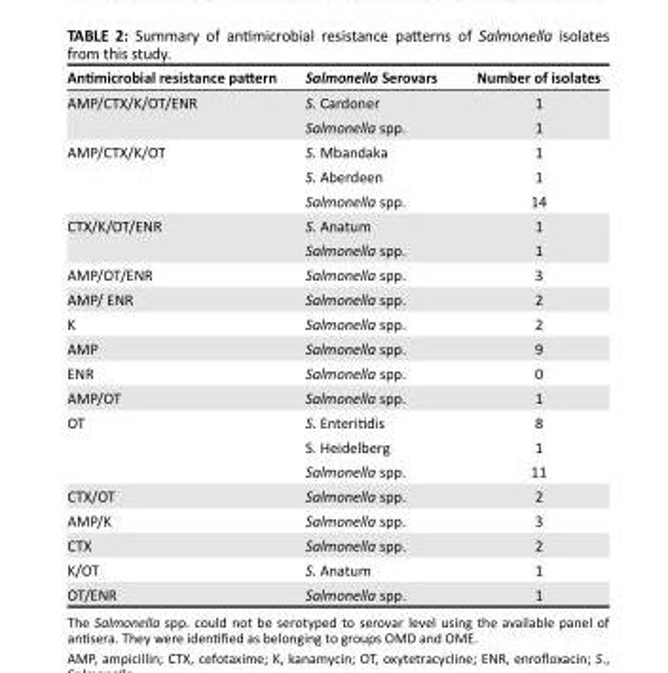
<table><thead><tr><td>Antimicrobial resistance pattern</td><td>Salmonella Serovars</td><td>Number of isolates</td></tr></thead><tbody><tr><td rowspan="2">AMP/CTX/K/OT/ENR</td><td>S. Cardoner</td><td>1</td></tr><tr><td>Salmonella spp.</td><td>1</td></tr><tr><td rowspan="3">AMP/CTX/K/OT</td><td>S. Mbandaka</td><td>1</td></tr><tr><td>S. Aberdeen</td><td>1</td></tr><tr><td>Salmonella spp.</td><td>14</td></tr><tr><td rowspan="2">CTX/K/OT/ENR</td><td>S. Anatum</td><td>1</td></tr><tr><td>Salmonella spp.</td><td>1</td></tr><tr><td>AMP/OT/ENR</td><td>Salmonella spp.</td><td>3</td></tr><tr><td>AMP/ ENR</td><td>Salmonella spp.</td><td>2</td></tr><tr><td>K</td><td>Salmonella spp.</td><td>2</td></tr><tr><td>AMP</td><td>Salmonella spp.</td><td>9</td></tr><tr><td>ENR</td><td>Salmonella spp.</td><td>0</td></tr><tr><td>AMP/OT</td><td>Salmonella spp.</td><td>1</td></tr><tr><td rowspan="3">OT</td><td>S. Enteritidis</td><td>8</td></tr><tr><td>S. Heidelberg</td><td>1</td></tr><tr><td>Salmonella spp.</td><td>11</td></tr><tr><td>CTX/OT</td><td>Salmonella spp.</td><td>2</td></tr><tr><td>AMP/K</td><td>Salmonella spp.</td><td>3</td></tr><tr><td>CTX</td><td>Salmonella spp.</td><td>2</td></tr><tr><td>K/OT</td><td>S. Anatum</td><td>1</td></tr><tr><td>OT/ENR</td><td>Salmonella spp.</td><td>1</td></tr></tbody></table>